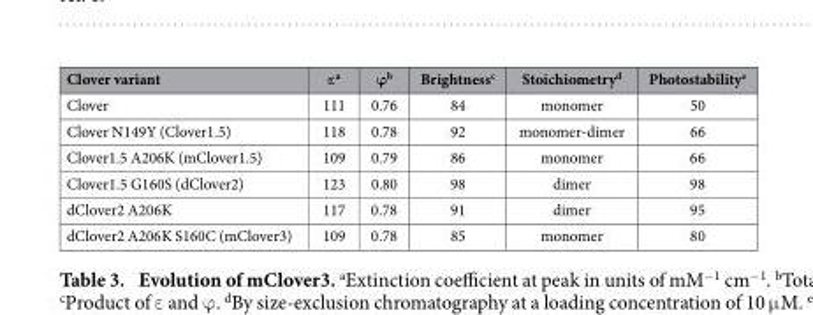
<table><thead><tr><td>Clover variant</td><td>ε<sup>a</sup></td><td>ϕ<sup>b</sup></td><td>Brightness<sup>c</sup></td><td>Stoichiometry<sup>d</sup></td><td>Photostability<sup>e</sup></td></tr></thead><tbody><tr><td>Clover</td><td>111</td><td>0.76</td><td>84</td><td>monomer</td><td>50</td></tr><tr><td>Clover N149Y (Clover1.5)</td><td>118</td><td>0.78</td><td>92</td><td>monomer-dimer</td><td>66</td></tr><tr><td>Clover1.5 A206K (mClover1.5)</td><td>109</td><td>0.79</td><td>86</td><td>monomer</td><td>66</td></tr><tr><td>Clover1.5 G160S (dClover2)</td><td>123</td><td>0.80</td><td>98</td><td>dimer</td><td>98</td></tr><tr><td>dClover2 A206K</td><td>117</td><td>0.78</td><td>91</td><td>dimer</td><td>95</td></tr><tr><td>dClover2 A206K S160C (mClover3)</td><td>109</td><td>0.78</td><td>85</td><td>monomer</td><td>80</td></tr></tbody></table>